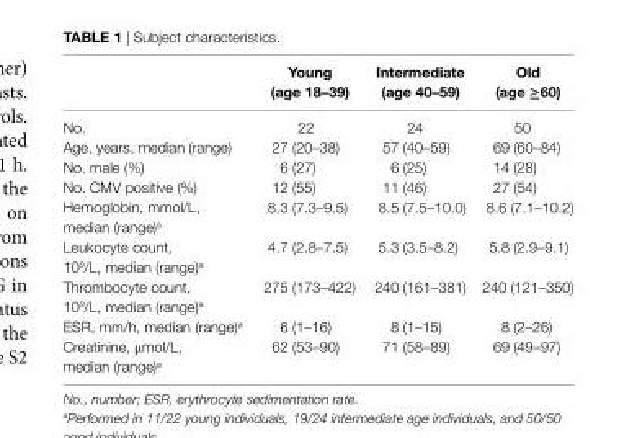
<table><thead><tr><td></td><td>Young (age 18–39)</td><td>intermediate (age 40–59)</td><td>Old (age ≥60)</td></tr></thead><tbody><tr><td>No.</td><td>22</td><td>24</td><td>50</td></tr><tr><td>Age, years, median (range)</td><td>27 (20–38)</td><td>57 (40–59)</td><td>69 (60–84)</td></tr><tr><td>No. male (%)</td><td>6 (27)</td><td>6 (25)</td><td>14 (28)</td></tr><tr><td>No. CMV positive (%)</td><td>12 (55)</td><td>11 (46)</td><td>27 (54)</td></tr><tr><td>Hemoglobin, mmol/L, median (range)<sup>a</sup></td><td>8.3 (7.3–9.5)</td><td>8.5 (7.5–10.0)</td><td>8.6 (7.1–10.2)</td></tr><tr><td>Leukocyte count, 10<sup>9</sup>/L, median (range)<sup>a</sup></td><td>4.7 (2.8–7.5)</td><td>5.3 (3.5–8.2)</td><td>5.8 (2.9–9.1)</td></tr><tr><td>Thrombocyte count, 10<sup>9</sup>/L, median (range)<sup>a</sup></td><td>275 (173–422)</td><td>240 (161–381)</td><td>240 (121–350)</td></tr><tr><td>ESR, mm/h, median (range)<sup>a</sup></td><td>6 (1–16)</td><td>8 (1–15)</td><td>8 (2–26)</td></tr><tr><td>Creatinine, μmol/L, median (range)<sup>a</sup></td><td>62 (53–90)</td><td>71 (58–89)</td><td>69 (49–97)</td></tr></tbody></table>